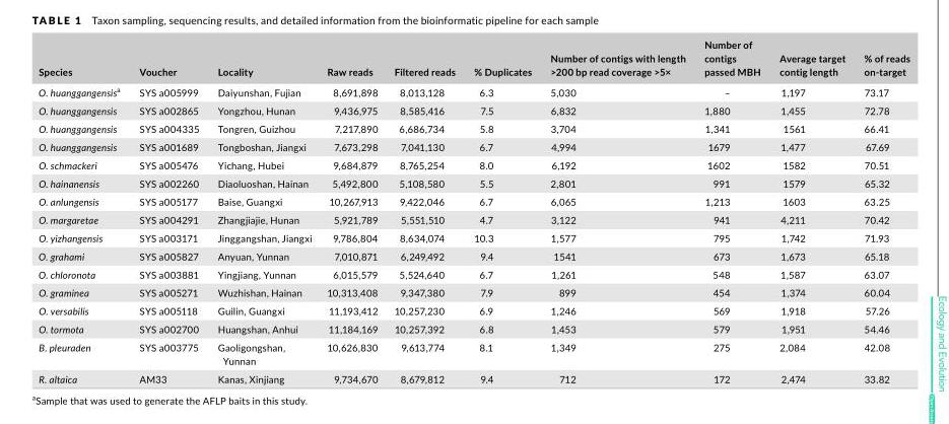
<table><thead><tr><td>Species</td><td>Voucher</td><td>Locality</td><td>Raw reads</td><td>Filtered reads</td><td>% Duplicates</td><td>Number of contigs with length &gt;200 bp read coverage &gt;5×</td><td>Number of contigs passed MBH</td><td>Average target contig length</td><td>% of reads on‐target</td></tr></thead><tbody><tr><td>O. huanggangensisa</td><td>SYS a005999</td><td>Daiyunshan, Fujian</td><td>8,691,898</td><td>8,013,128</td><td>6.3</td><td>5,030</td><td>–</td><td>1,197</td><td>73.17</td></tr><tr><td>O. huanggangensis</td><td>SYS a002865</td><td>Yongzhou, Hunan</td><td>9,436,975</td><td>8,585,416</td><td>7.5</td><td>6,832</td><td>1,880</td><td>1,455</td><td>72.78</td></tr><tr><td>O. huanggangensis</td><td>SYS a004335</td><td>Tongren, Guizhou</td><td>7,217,890</td><td>6,686,734</td><td>5.8</td><td>3,704</td><td>1,341</td><td>1561</td><td>66.41</td></tr><tr><td>O. huanggangensis</td><td>SYS a001689</td><td>Tongboshan, Jiangxi</td><td>7,673,298</td><td>7,041,130</td><td>6.7</td><td>4,994</td><td>1679</td><td>1,477</td><td>67.69</td></tr><tr><td>O. schmackeri</td><td>SYS a005476</td><td>Yichang, Hubei</td><td>9,684,879</td><td>8,765,254</td><td>8.0</td><td>6,192</td><td>1602</td><td>1582</td><td>70.51</td></tr><tr><td>O. hainanensis</td><td>SYS a002260</td><td>Diaoluoshan, Hainan</td><td>5,492,800</td><td>5,108,580</td><td>5.5</td><td>2,801</td><td>991</td><td>1579</td><td>65.32</td></tr><tr><td>O. anlungensis</td><td>SYS a005177</td><td>Baise, Guangxi</td><td>10,267,913</td><td>9,422,046</td><td>6.7</td><td>6,065</td><td>1,213</td><td>1603</td><td>63.25</td></tr><tr><td>O. margaretae</td><td>SYS a004291</td><td>Zhangjiajie, Hunan</td><td>5,921,789</td><td>5,551,510</td><td>4.7</td><td>3,122</td><td>941</td><td>4,211</td><td>70.42</td></tr><tr><td>O. yizhangensis</td><td>SYS a003171</td><td>Jinggangshan, Jiangxi</td><td>9,786,804</td><td>8,634,074</td><td>10.3</td><td>1,577</td><td>795</td><td>1,742</td><td>71.93</td></tr><tr><td>O. grahami</td><td>SYS a005827</td><td>Anyuan, Yunnan</td><td>7,010,871</td><td>6,249,492</td><td>9.4</td><td>1541</td><td>673</td><td>1,673</td><td>65.18</td></tr><tr><td>O. chloronota</td><td>SYS a003881</td><td>Yingjiang, Yunnan</td><td>6,015,579</td><td>5,524,640</td><td>6.7</td><td>1,261</td><td>548</td><td>1,587</td><td>63.07</td></tr><tr><td>O. graminea</td><td>SYS a005271</td><td>Wuzhishan, Hainan</td><td>10,313,408</td><td>9,347,380</td><td>7.9</td><td>899</td><td>454</td><td>1,374</td><td>60.04</td></tr><tr><td>O. versabilis</td><td>SYS a005118</td><td>Guilin, Guangxi</td><td>11,193,412</td><td>10,257,230</td><td>6.9</td><td>1,246</td><td>569</td><td>1,918</td><td>57.26</td></tr><tr><td>O. tormota</td><td>SYS a002700</td><td>Huangshan, Anhui</td><td>11,184,169</td><td>10,257,392</td><td>6.8</td><td>1,453</td><td>579</td><td>1,951</td><td>54.46</td></tr><tr><td>B. pleuraden</td><td>SYS a003775</td><td>Gaoligongshan, Yunnan</td><td>10,626,830</td><td>9,613,774</td><td>8.1</td><td>1,349</td><td>275</td><td>2,084</td><td>42.08</td></tr><tr><td>R. altaica</td><td>AM33</td><td>Kanas, Xinjiang</td><td>9,734,670</td><td>8,679,812</td><td>9.4</td><td>712</td><td>172</td><td>2,474</td><td>33.82</td></tr></tbody></table>